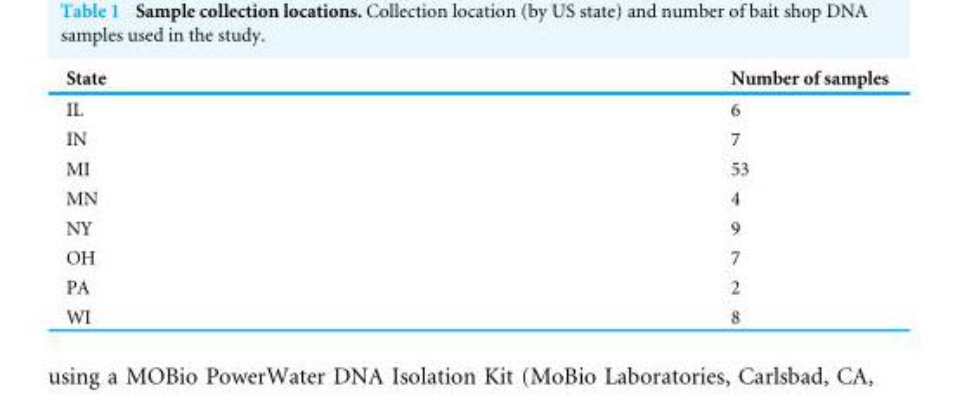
<table><thead><tr><td>State</td><td>Number of samples</td></tr></thead><tbody><tr><td>IL</td><td>6</td></tr><tr><td>IN</td><td>7</td></tr><tr><td>MI</td><td>53</td></tr><tr><td>MN</td><td>4</td></tr><tr><td>NY</td><td>9</td></tr><tr><td>OH</td><td>7</td></tr><tr><td>PA</td><td>2</td></tr><tr><td>WI</td><td>8</td></tr></tbody></table>